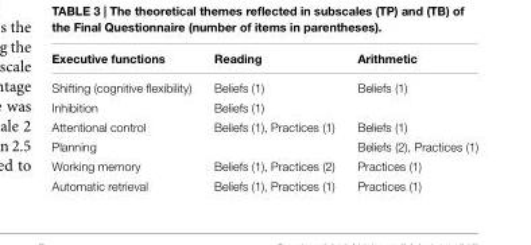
<table><thead><tr><td>Executive functions</td><td>Reading</td><td>Arithmetic</td></tr></thead><tbody><tr><td>Shifting (cognitive flexibility)</td><td>Beliefs (1)</td><td>Beliefs (1)</td></tr><tr><td>Inhibition</td><td>Beliefs (1)</td><td></td></tr><tr><td>Attentional control</td><td>Beliefs (1), Practices (1)</td><td>Beliefs (1)</td></tr><tr><td>Planning</td><td></td><td>Beliefs (2), Practices (1)</td></tr><tr><td>Working memory</td><td>Beliefs (1), Practices (2)</td><td>Practices (1)</td></tr><tr><td>Automatic retrieval</td><td>Beliefs (1), Practices (1)</td><td>Practices (1)</td></tr></tbody></table>